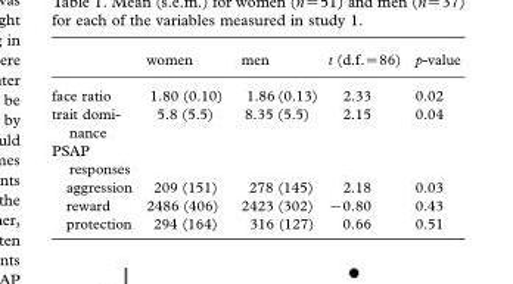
<table><thead><tr><td></td><td>women</td><td>men</td><td>t (d.f.=86)</td><td>p-value</td></tr></thead><tbody><tr><td>face ratio</td><td>1.80 (0.10)</td><td>1.86 (0.13)</td><td>2.33</td><td>0.02</td></tr><tr><td>trait domi- nance</td><td>5.8 (5.5)</td><td>8.35 (5.5)</td><td>2.15</td><td>0.04</td></tr><tr><td colspan="5">PSAP responses</td></tr><tr><td>aggression</td><td>209 (151)</td><td>278 (145)</td><td>2.18</td><td>0.03</td></tr><tr><td>reward</td><td>2486 (406)</td><td>2423 (302)</td><td>−0.80</td><td>0.43</td></tr><tr><td>protection</td><td>294 (164)</td><td>316 (127)</td><td>0.66</td><td>0.51</td></tr></tbody></table>